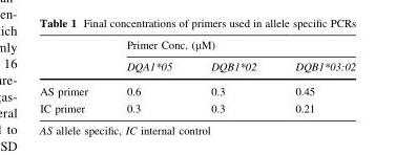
<table><thead><tr><td rowspan="2"></td><td colspan="3">Primer Conc. (μM)</td></tr><tr><td>DQA1*05</td><td>DQB1*02</td><td>DQB1*03:02</td></tr></thead><tbody><tr><td>AS primer</td><td>0.6</td><td>0.3</td><td>0.45</td></tr><tr><td>IC primer</td><td>0.3</td><td>0.3</td><td>0.21</td></tr></tbody></table>